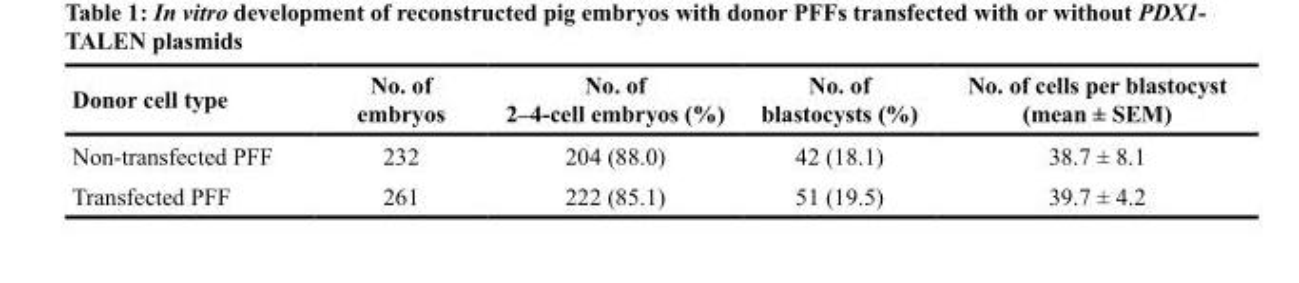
<table><thead><tr><td>Donor cell type</td><td>No. of embryos</td><td>No. of 2–4-cell embryos (%)</td><td>No. of blastocysts (%)</td><td>No. of cells per blastocyst (mean ± SEM)</td></tr></thead><tbody><tr><td>Non-transfected PFF</td><td>232</td><td>204 (88.0)</td><td>42 (18.1)</td><td>38.7 ± 8.1</td></tr><tr><td>Transfected PFF</td><td>261</td><td>222 (85.1)</td><td>51 (19.5)</td><td>39.7 ± 4.2</td></tr></tbody></table>